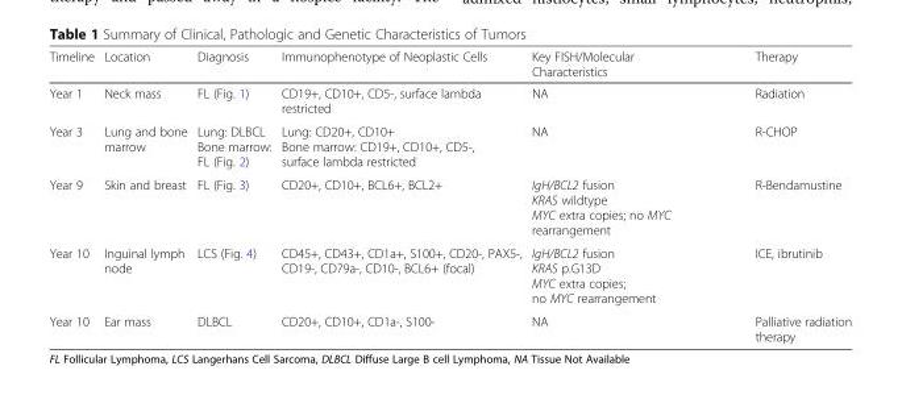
<table><thead><tr><td>Timeline</td><td>Location</td><td>Diagnosis</td><td>Immunophenotype of Neoplastic Cells</td><td>Key FISH/Molecular Characteristics</td><td>Therapy</td></tr></thead><tbody><tr><td>Year 1</td><td>Neck mass</td><td>FL (Fig. 1)</td><td>CD19+, CD10+, CD5-, surface lambda restricted</td><td>NA</td><td>Radiation</td></tr><tr><td>Year 3</td><td>Lung and bone marrow</td><td>Lung: DLBCL Bone marrow: FL (Fig. 2)</td><td>Lung: CD20+, CD10+ Bone marrow: CD19+, CD10+, CD5-, surface lambda restricted</td><td>NA</td><td>R-CHOP</td></tr><tr><td>Year 9</td><td>Skin and breast</td><td>FL (Fig. 3)</td><td>CD20+, CD10+, BCL6+, BCL2+</td><td>IgH/BCL2 fusion KRAS wildtype MYC extra copies; no MYC rearrangement</td><td>R-Bendamustine</td></tr><tr><td>Year 10</td><td>Inguinal lymph node</td><td>LCS (Fig. 4)</td><td>CD45+, CD43+, CD1a+, S100+, CD20-, PAX5-, CD19-, CD79a-, CD10-, BCL6+ (focal)</td><td>IgH/BCL2 fusion KRAS p.G13D MYC extra copies; no MYC rearrangement</td><td>ICE, ibrutinib</td></tr><tr><td>Year 10</td><td>Ear mass</td><td>DLBCL</td><td>CD20+, CD10+, CD1a-, S100-</td><td>NA</td><td>Palliative radiation therapy</td></tr></tbody></table>